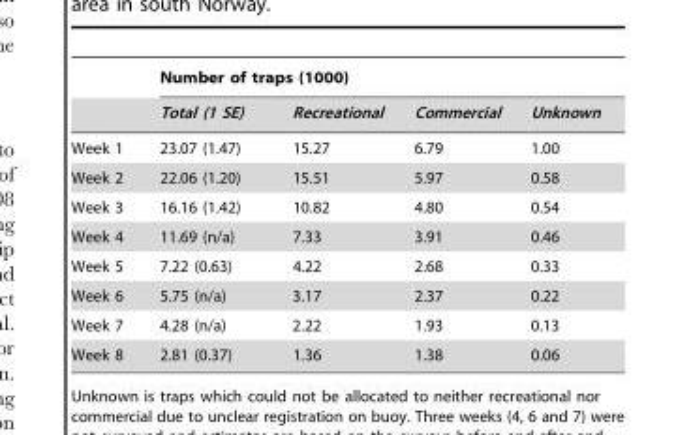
<table><thead><tr><td rowspan="2"></td><td colspan="4">Number of traps (1000)</td></tr><tr><td>Total (1 SE)</td><td>Recreational</td><td>Commercial</td><td>Unknown</td></tr></thead><tbody><tr><td>Week 1</td><td>23.07 (1.47)</td><td>15.27</td><td>6.79</td><td>1.00</td></tr><tr><td>Week 2</td><td>22.06 (1.20)</td><td>15.51</td><td>5.97</td><td>0.58</td></tr><tr><td>Week 3</td><td>16.16 (1.42)</td><td>10.82</td><td>4.80</td><td>0.54</td></tr><tr><td>Week 4</td><td>11.69 (n/a)</td><td>7.33</td><td>3.91</td><td>0.46</td></tr><tr><td>Week 5</td><td>7.22 (0.63)</td><td>4.22</td><td>2.68</td><td>0.33</td></tr><tr><td>Week 6</td><td>5.75 (n/a)</td><td>3.17</td><td>2.37</td><td>0.22</td></tr><tr><td>Week 7</td><td>4.28 (n/a)</td><td>2.22</td><td>1.93</td><td>0.13</td></tr><tr><td>Week 8</td><td>2.81 (0.37)</td><td>1.36</td><td>1.38</td><td>0.06</td></tr></tbody></table>